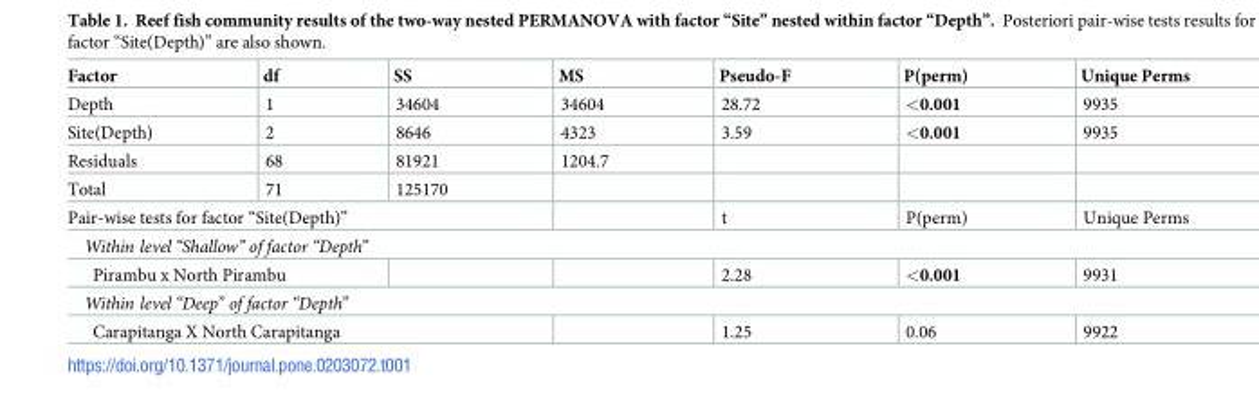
<table><thead><tr><td>Factor</td><td>df</td><td>SS</td><td>MS</td><td>Pseudo-F</td><td>P(perm)</td><td>Unique Perms</td></tr></thead><tbody><tr><td>Depth</td><td>1</td><td>34604</td><td>34604</td><td>28.72</td><td>&lt;0.001</td><td>9935</td></tr><tr><td>Site(Depth)</td><td>2</td><td>8646</td><td>4323</td><td>3.59</td><td>&lt;0.001</td><td>9935</td></tr><tr><td>Residuals</td><td>68</td><td>81921</td><td>1204.7</td><td></td><td></td><td></td></tr><tr><td>Total</td><td>71</td><td>125170</td><td></td><td></td><td></td><td></td></tr><tr><td colspan="3">Pair-wise tests for factor “Site(Depth)”</td><td></td><td>t</td><td>P(perm)</td><td>Unique Perms</td></tr><tr><td colspan="7">Within level “Shallow” of factor “Depth”</td></tr><tr><td colspan="2">Pirambu x North Pirambu</td><td></td><td></td><td>2.28</td><td>&lt;0.001</td><td>9931</td></tr><tr><td colspan="7">Within level “Deep” of factor “Depth”</td></tr><tr><td colspan="3">Carapitanga X North Carapitanga</td><td></td><td>1.25</td><td>0.06</td><td>9922</td></tr></tbody></table>